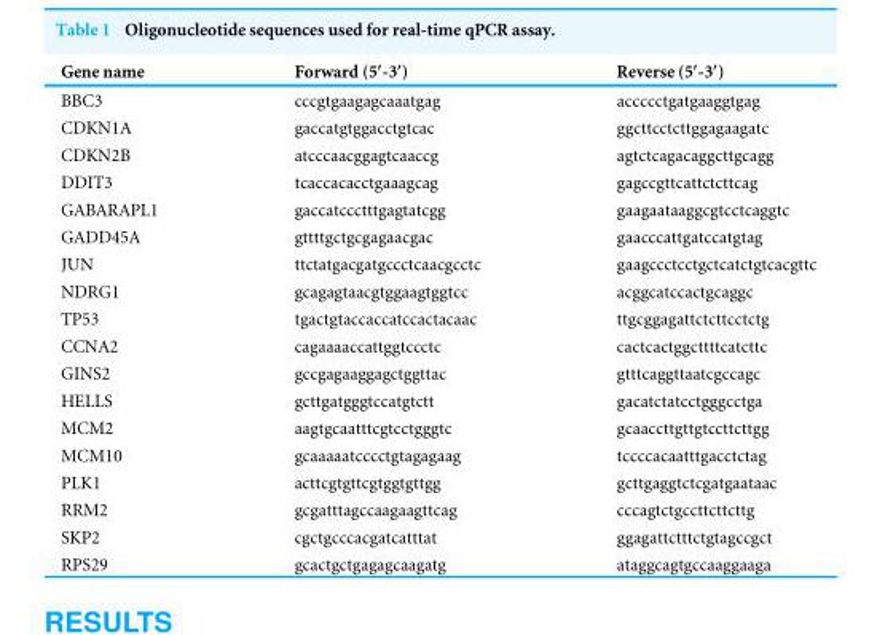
<table><thead><tr><td>Gene name</td><td>Forward (5′-3′)</td><td>Reverse (5′-3′)</td></tr></thead><tbody><tr><td>BBC3</td><td>cccgtgaagagcaaatgag</td><td>accccctgatgaaggtgag</td></tr><tr><td>CDKN1A</td><td>gaccatgtggacctgtcac</td><td>ggcttcctcttggagaagatc</td></tr><tr><td>CDKN2B</td><td>atcccaacggagtcaaccg</td><td>agtctcagacaggcttgcagg</td></tr><tr><td>DDIT3</td><td>tcaccacacctgaaagcag</td><td>gagccgttcattctcttcag</td></tr><tr><td>GABARAPL1</td><td>gaccatccctttgagtatcgg</td><td>gaagaataaggcgtcctcaggtc</td></tr><tr><td>GADD45A</td><td>gttttgctgcgagaacgac</td><td>gaacccattgatccatgtag</td></tr><tr><td>JUN</td><td>ttctatgacgatgccctcaacgcctc</td><td>gaagccctcctgctcatctgtcacgttc</td></tr><tr><td>NDRG1</td><td>gcagagtaacgtggaagtggtcc</td><td>acggcatccactgcaggc</td></tr><tr><td>TP53</td><td>tgactgtaccaccatccactacaac</td><td>ttgcggagattctcttcctctg</td></tr><tr><td>CCNA2</td><td>cagaaaaccattggtccctc</td><td>cactcactggcttttcatcttc</td></tr><tr><td>GINS2</td><td>gccgagaaggagctggttac</td><td>gtttcaggttaatcgccagc</td></tr><tr><td>HELLS</td><td>gcttgatgggtccatgtctt</td><td>gacatctatcctgggcctga</td></tr><tr><td>MCM2</td><td>aagtgcaatttcgtcctgggtc</td><td>gcaaccttgttgtccttcttgg</td></tr><tr><td>MCM10</td><td>gcaaaaatcccctgtagagaag</td><td>tccccacaatttgacctctag</td></tr><tr><td>PLK1</td><td>acttcgtgttcgtggtgttgg</td><td>gcttgaggtctcgatgaataac</td></tr><tr><td>RRM2</td><td>gcgatttagccaagaagttcag</td><td>cccagtctgccttcttcttg</td></tr><tr><td>SKP2</td><td>cgctgcccacgatcatttat</td><td>ggagattctttctgtagccgct</td></tr><tr><td>RPS29</td><td>gcactgctgagagcaagatg</td><td>ataggcagtgccaaggaaga</td></tr></tbody></table>